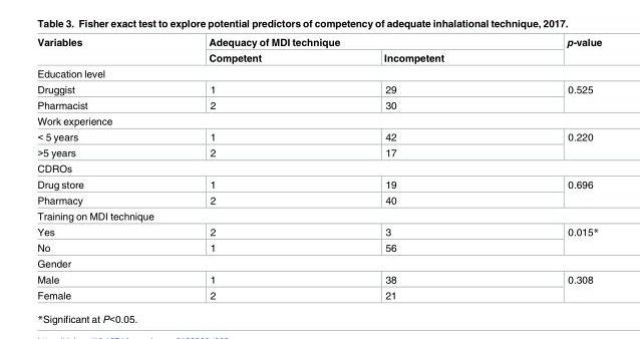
<table><thead><tr><td rowspan="2">Variables</td><td colspan="2">Adequacy of MDI technique</td><td rowspan="2">p-value</td></tr><tr><td>Competent</td><td>Incompetent</td></tr></thead><tbody><tr><td colspan="4">Education level</td></tr><tr><td>Druggist</td><td>1</td><td>29</td><td rowspan="2">0.525</td></tr><tr><td>Pharmacist</td><td>2</td><td>30</td></tr><tr><td colspan="4">Work experience</td></tr><tr><td>&lt; 5 years</td><td>1</td><td>42</td><td rowspan="2">0.220</td></tr><tr><td>&gt;5 years</td><td>2</td><td>17</td></tr><tr><td colspan="4">CDROs</td></tr><tr><td>Drug store</td><td>1</td><td>19</td><td rowspan="2">0.696</td></tr><tr><td>Pharmacy</td><td>2</td><td>40</td></tr><tr><td colspan="4">Training on MDI technique</td></tr><tr><td>Yes</td><td>2</td><td>3</td><td rowspan="2">0.015*</td></tr><tr><td>No</td><td>1</td><td>56</td></tr><tr><td colspan="4">Gender</td></tr><tr><td>Male</td><td>1</td><td>38</td><td rowspan="2">0.308</td></tr><tr><td>Female</td><td>2</td><td>21</td></tr></tbody></table>